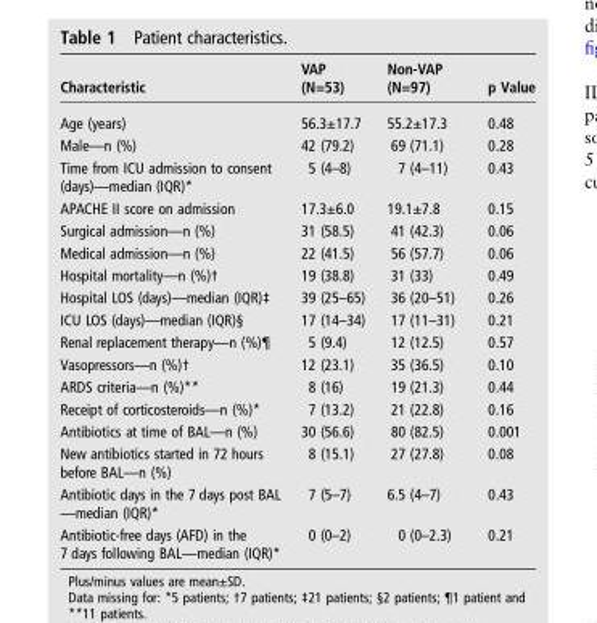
<table><thead><tr><td>Characteristic</td><td>VAP (N=53)</td><td>Non-VAP (N=97)</td><td>p Value</td></tr></thead><tbody><tr><td>Age (years)</td><td>56.3±17.7</td><td>55.2±17.3</td><td>0.48</td></tr><tr><td>Male—n (%)</td><td>42 (79.2)</td><td>69 (71.1)</td><td>0.28</td></tr><tr><td>Time from ICU admission to consent (days)—median (IQR)*</td><td>5 (4–8)</td><td>7 (4–11)</td><td>0.43</td></tr><tr><td>APACHE II score on admission</td><td>17.3±6.0</td><td>19.1±7.8</td><td>0.15</td></tr><tr><td>Surgical admission—n (%)</td><td>31 (58.5)</td><td>41 (42.3)</td><td>0.06</td></tr><tr><td>Medical admission—n (%)</td><td>22 (41.5)</td><td>56 (57.7)</td><td>0.06</td></tr><tr><td>Hospital mortality—n (%)†</td><td>19 (38.8)</td><td>31 (33)</td><td>0.49</td></tr><tr><td>Hospital LOS (days)—median (IQR)‡</td><td>39 (25–65)</td><td>36 (20–51)</td><td>0.26</td></tr><tr><td>ICU LOS (days)—median (IQR)§</td><td>17 (14–34)</td><td>17 (11–31)</td><td>0.21</td></tr><tr><td>Renal replacement therapy—n (%)¶</td><td>5 (9.4)</td><td>12 (12.5)</td><td>0.57</td></tr><tr><td>Vasopressors—n (%)†</td><td>12 (23.1)</td><td>35 (36.5)</td><td>0.10</td></tr><tr><td>ARDS criteria—n (%)**</td><td>8 (16)</td><td>19 (21.3)</td><td>0.44</td></tr><tr><td>Receipt of corticosteroids—n (%)*</td><td>7 (13.2)</td><td>21 (22.8)</td><td>0.16</td></tr><tr><td>Antibiotics at time of BAL—n (%)</td><td>30 (56.6)</td><td>80 (82.5)</td><td>0.001</td></tr><tr><td>New antibiotics started in 72 hours before BAL—n (%)</td><td>8 (15.1)</td><td>27 (27.8)</td><td>0.08</td></tr><tr><td>Antibiotic days in the 7 days post BAL —median (IQR)*</td><td>7 (5–7)</td><td>6.5 (4–7)</td><td>0.43</td></tr><tr><td>Antibiotic-free days (AFD) in the 7 days following BAL—median (IQR)*</td><td>0 (0–2)</td><td>0 (0–2.3)</td><td>0.21</td></tr></tbody></table>